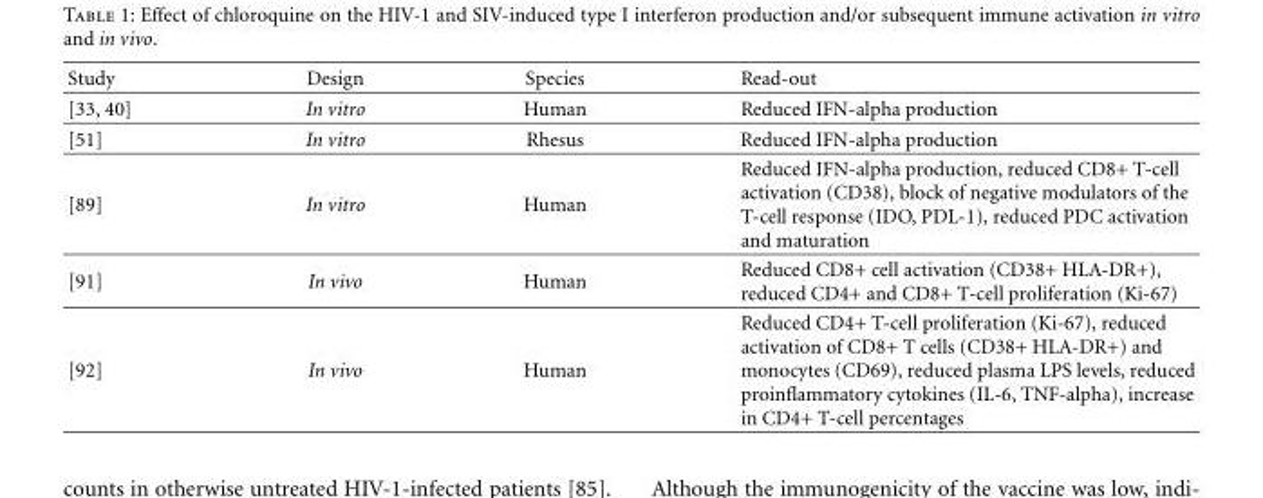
<table><thead><tr><td>Study</td><td>Design</td><td>Species</td><td>Read-out</td></tr></thead><tbody><tr><td>[33, 40]</td><td>In vitro</td><td>Human</td><td>Reduced IFN-alpha production</td></tr><tr><td>[51]</td><td>In vitro</td><td>Rhesus</td><td>Reduced IFN-alpha production</td></tr><tr><td>[89]</td><td>In vitro</td><td>Human</td><td>Reduced IFN-alpha production, reduced CD8+ T-cell activation (CD38), block of negative modulators of the T-cell response (IDO, PDL-1), reduced PDC activation and maturation</td></tr><tr><td>[91]</td><td>In vivo</td><td>Human</td><td>Reduced CD8+ cell activation (CD38+ HLA-DR+), reduced CD4+ and CD8+ T-cell proliferation (Ki-67)</td></tr><tr><td>[92]</td><td>In vivo</td><td>Human</td><td>Reduced CD4+ T-cell proliferation (Ki-67), reduced activation of CD8+ T cells (CD38+ HLA-DR+) and monocytes (CD69), reduced plasma LPS levels, reduced proinflammatory cytokines (IL-6, TNF-alpha), increase in CD4+ T-cell percentages</td></tr></tbody></table>